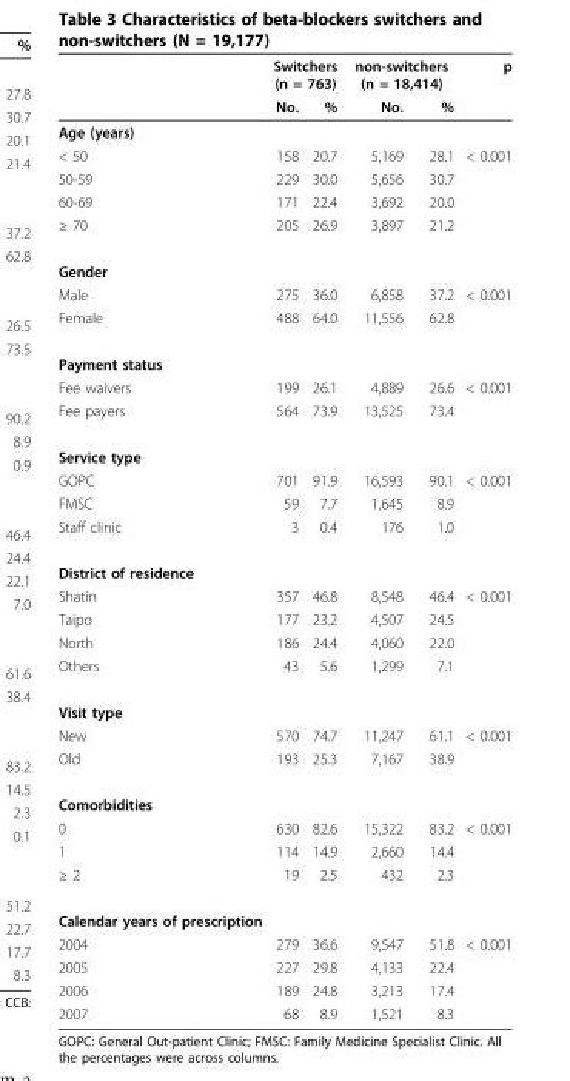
<table><thead><tr><td rowspan="2"></td><td colspan="2">Switchers (n = 763)</td><td colspan="2">non-switchers (n = 18,414)</td><td rowspan="2">p</td></tr><tr><td>No.</td><td>%</td><td>No.</td><td>%</td></tr></thead><tbody><tr><td colspan="6">Age (years)</td></tr><tr><td>&lt; 50</td><td>158</td><td>20.7</td><td>5,169</td><td>28.1</td><td>&lt; 0.001</td></tr><tr><td>50-59</td><td>229</td><td>30.0</td><td>5,656</td><td>30.7</td><td></td></tr><tr><td>60-69</td><td>171</td><td>22.4</td><td>3,692</td><td>20.0</td><td></td></tr><tr><td>≥ 70</td><td>205</td><td>26.9</td><td>3,897</td><td>21.2</td><td></td></tr><tr><td colspan="6">Gender</td></tr><tr><td>Male</td><td>275</td><td>36.0</td><td>6,858</td><td>37.2</td><td>&lt; 0.001</td></tr><tr><td>Female</td><td>488</td><td>64.0</td><td>11,556</td><td>62.8</td><td></td></tr><tr><td colspan="6">Payment status</td></tr><tr><td>Fee waivers</td><td>199</td><td>26.1</td><td>4,889</td><td>26.6</td><td>&lt; 0.001</td></tr><tr><td>Fee payers</td><td>564</td><td>73.9</td><td>13,525</td><td>73.4</td><td></td></tr><tr><td colspan="6">Service type</td></tr><tr><td>GOPC</td><td>701</td><td>91.9</td><td>16,593</td><td>90.1</td><td>&lt; 0.001</td></tr><tr><td>FMSC</td><td>59</td><td>7.7</td><td>1,645</td><td>8.9</td><td></td></tr><tr><td>Staff clinic</td><td>3</td><td>0.4</td><td>176</td><td>1.0</td><td></td></tr><tr><td colspan="6">District of residence</td></tr><tr><td>Shatin</td><td>357</td><td>46.8</td><td>8,548</td><td>46.4</td><td>&lt; 0.001</td></tr><tr><td>Taipo</td><td>177</td><td>23.2</td><td>4,507</td><td>24.5</td><td></td></tr><tr><td>North</td><td>186</td><td>24.4</td><td>4,060</td><td>22.0</td><td></td></tr><tr><td>Others</td><td>43</td><td>5.6</td><td>1,299</td><td>7.1</td><td></td></tr><tr><td colspan="6">Visit type</td></tr><tr><td>New</td><td>570</td><td>74.7</td><td>11,247</td><td>61.1</td><td>&lt; 0.001</td></tr><tr><td>Old</td><td>193</td><td>25.3</td><td>7,167</td><td>38.9</td><td></td></tr><tr><td colspan="6">Comorbidities</td></tr><tr><td>0</td><td>630</td><td>82.6</td><td>15,322</td><td>83.2</td><td>&lt; 0.001</td></tr><tr><td>1</td><td>114</td><td>14.9</td><td>2,660</td><td>14.4</td><td></td></tr><tr><td>≥ 2</td><td>19</td><td>2.5</td><td>432</td><td>2.3</td><td></td></tr><tr><td colspan="6">Calendar years of prescription</td></tr><tr><td>2004</td><td>279</td><td>36.6</td><td>9,547</td><td>51.8</td><td>&lt; 0.001</td></tr><tr><td>2005</td><td>227</td><td>29.8</td><td>4,133</td><td>22.4</td><td></td></tr><tr><td>2006</td><td>189</td><td>24.8</td><td>3,213</td><td>17.4</td><td></td></tr><tr><td>2007</td><td>68</td><td>8.9</td><td>1,521</td><td>8.3</td><td></td></tr></tbody></table>